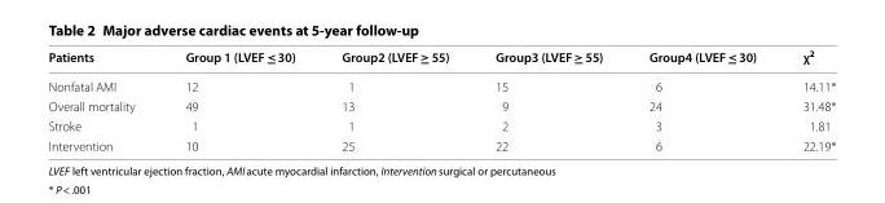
<table><thead><tr><td>Patients</td><td>Group 1 (LVEF ≤ 30)</td><td>Group2 (LVEF ≥ 55)</td><td>Group3 (LVEF ≥ 55)</td><td>Group4 (LVEF ≤ 30)</td><td>χ<sup>2</sup></td></tr></thead><tbody><tr><td>Nonfatal AMI</td><td>12</td><td>1</td><td>15</td><td>6</td><td>14.11*</td></tr><tr><td>Overall mortality</td><td>49</td><td>13</td><td>9</td><td>24</td><td>31.48*</td></tr><tr><td>Stroke</td><td>1</td><td>1</td><td>2</td><td>3</td><td>1.81</td></tr><tr><td>Intervention</td><td>10</td><td>25</td><td>22</td><td>6</td><td>22.19*</td></tr></tbody></table>